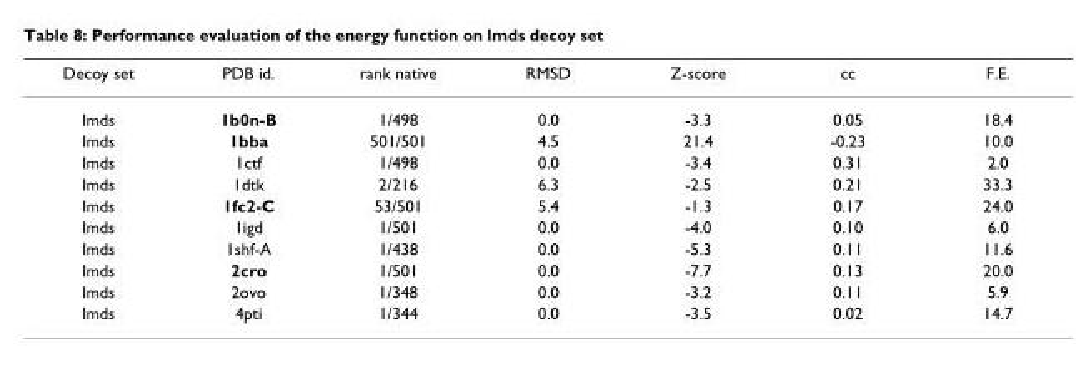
<table><thead><tr><td>Decoy set</td><td>PDB id.</td><td>rank native</td><td>RMSD</td><td>Z-score</td><td>cc</td><td>F.E.</td></tr></thead><tbody><tr><td>lmds</td><td>1b0n-B</td><td>1/498</td><td>0.0</td><td>-3.3</td><td>0.05</td><td>18.4</td></tr><tr><td>lmds</td><td>1bba</td><td>501/501</td><td>4.5</td><td>21.4</td><td>-0.23</td><td>10.0</td></tr><tr><td>lmds</td><td>1ctf</td><td>1/498</td><td>0.0</td><td>-3.4</td><td>0.31</td><td>2.0</td></tr><tr><td>lmds</td><td>1dtk</td><td>2/216</td><td>6.3</td><td>-2.5</td><td>0.21</td><td>33.3</td></tr><tr><td>lmds</td><td>1fc2-C</td><td>53/501</td><td>5.4</td><td>-1.3</td><td>0.17</td><td>24.0</td></tr><tr><td>lmds</td><td>1igd</td><td>1/501</td><td>0.0</td><td>-4.0</td><td>0.10</td><td>6.0</td></tr><tr><td>lmds</td><td>1shf-A</td><td>1/438</td><td>0.0</td><td>-5.3</td><td>0.11</td><td>11.6</td></tr><tr><td>lmds</td><td>2cro</td><td>1/501</td><td>0.0</td><td>-7.7</td><td>0.13</td><td>20.0</td></tr><tr><td>lmds</td><td>2ovo</td><td>1/348</td><td>0.0</td><td>-3.2</td><td>0.11</td><td>5.9</td></tr><tr><td>lmds</td><td>4pti</td><td>1/344</td><td>0.0</td><td>-3.5</td><td>0.02</td><td>14.7</td></tr></tbody></table>